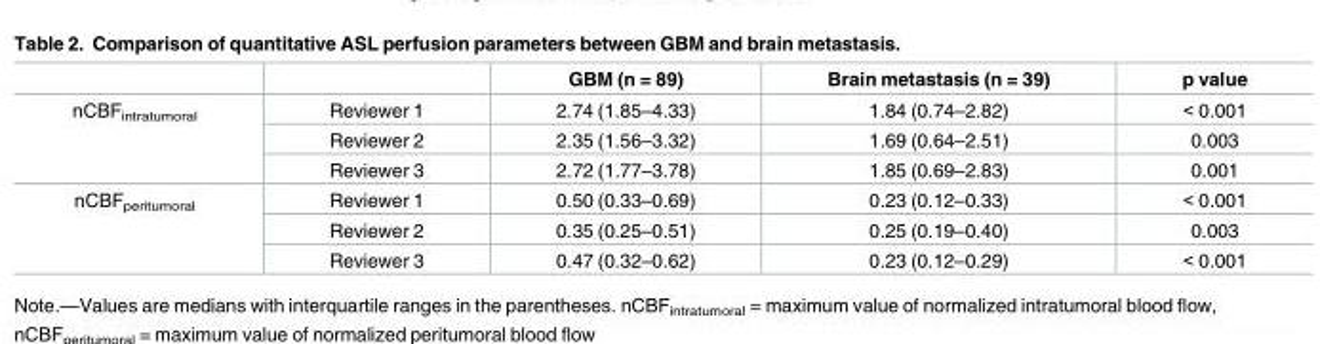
<table><thead><tr><td></td><td></td><td>GBM (n = 89)</td><td>Brain metastasis (n = 39)</td><td>p value</td></tr></thead><tbody><tr><td rowspan="3">nCBF<sub>intratumoral</sub></td><td>Reviewer 1</td><td>2.74 (1.85–4.33)</td><td>1.84 (0.74–2.82)</td><td>&lt; 0.001</td></tr><tr><td>Reviewer 2</td><td>2.35 (1.56–3.32)</td><td>1.69 (0.64–2.51)</td><td>0.003</td></tr><tr><td>Reviewer 3</td><td>2.72 (1.77–3.78)</td><td>1.85 (0.69–2.83)</td><td>0.001</td></tr><tr><td rowspan="3">nCBF<sub>peritumoral</sub></td><td>Reviewer 1</td><td>0.50 (0.33–0.69)</td><td>0.23 (0.12–0.33)</td><td>&lt; 0.001</td></tr><tr><td>Reviewer 2</td><td>0.35 (0.25–0.51)</td><td>0.25 (0.19–0.40)</td><td>0.003</td></tr><tr><td>Reviewer 3</td><td>0.47 (0.32–0.62)</td><td>0.23 (0.12–0.29)</td><td>&lt; 0.001</td></tr></tbody></table>